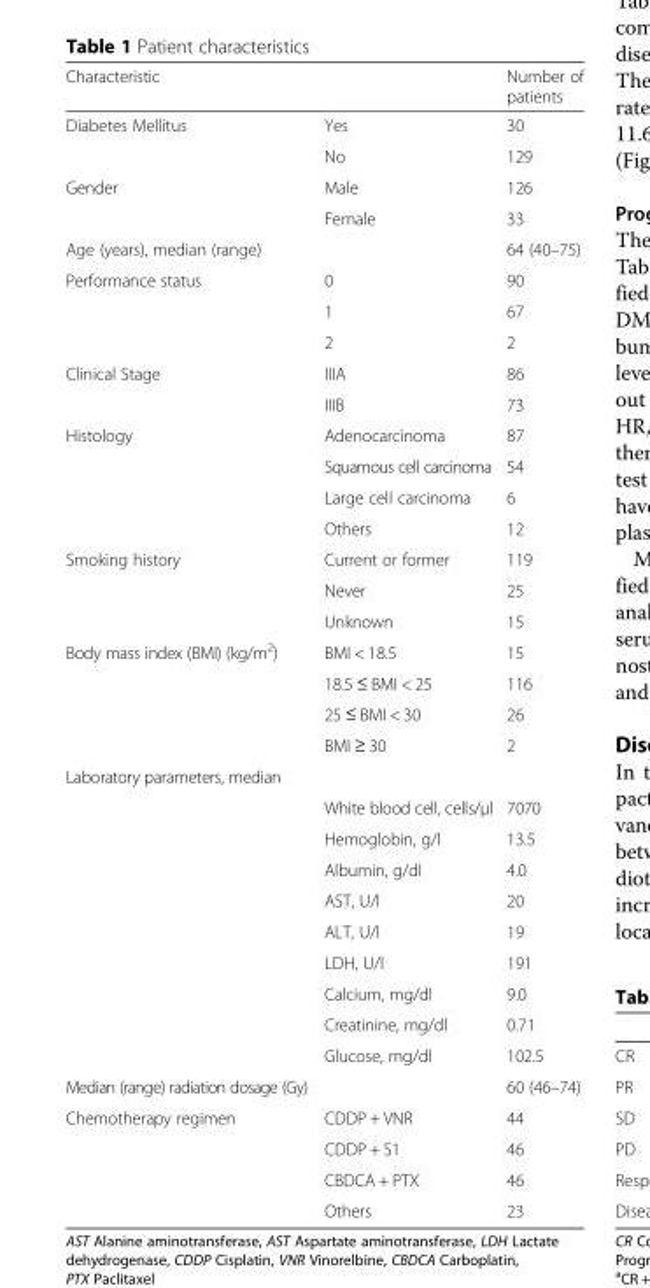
<table><thead><tr><td>Characteristic</td><td></td><td>Number of patients</td></tr></thead><tbody><tr><td rowspan="2">Diabetes Mellitus</td><td>Yes</td><td>30</td></tr><tr><td>No</td><td>129</td></tr><tr><td rowspan="2">Gender</td><td>Male</td><td>126</td></tr><tr><td>Female</td><td>33</td></tr><tr><td>Age (years), median (range)</td><td></td><td>64 (40–75)</td></tr><tr><td rowspan="3">Performance status</td><td>0</td><td>90</td></tr><tr><td>1</td><td>67</td></tr><tr><td>2</td><td>2</td></tr><tr><td rowspan="2">Clinical Stage</td><td>IIIA</td><td>86</td></tr><tr><td>IIIB</td><td>73</td></tr><tr><td rowspan="4">Histology</td><td>Adenocarcinoma</td><td>87</td></tr><tr><td>Squamous cell carcinoma</td><td>54</td></tr><tr><td>Large cell carcinoma</td><td>6</td></tr><tr><td>Others</td><td>12</td></tr><tr><td rowspan="3">Smoking history</td><td>Current or former</td><td>119</td></tr><tr><td>Never</td><td>25</td></tr><tr><td>Unknown</td><td>15</td></tr><tr><td rowspan="4">Body mass index (BMI) (kg/m<sup>2</sup>)</td><td>BMI &lt; 18.5</td><td>15</td></tr><tr><td>18.5 ≤ BMI &lt; 25</td><td>116</td></tr><tr><td>25 ≤ BMI &lt; 30</td><td>26</td></tr><tr><td>BMI ≥ 30</td><td>2</td></tr><tr><td colspan="3">Laboratory parameters, median</td></tr><tr><td></td><td>White blood cell, cells/μl</td><td>7070</td></tr><tr><td></td><td>Hemoglobin, g/l</td><td>13.5</td></tr><tr><td></td><td>Albumin, g/dl</td><td>4.0</td></tr><tr><td></td><td>AST, U/l</td><td>20</td></tr><tr><td></td><td>ALT, U/l</td><td>19</td></tr><tr><td></td><td>LDH, U/l</td><td>191</td></tr><tr><td></td><td>Calcium, mg/dl</td><td>9.0</td></tr><tr><td></td><td>Creatinine, mg/dl</td><td>0.71</td></tr><tr><td></td><td>Glucose, mg/dl</td><td>102.5</td></tr><tr><td>Median (range) radiation dosage (Gy)</td><td></td><td>60 (46–74)</td></tr><tr><td rowspan="4">Chemotherapy regimen</td><td>CDDP + VNR</td><td>44</td></tr><tr><td>CDDP + S1</td><td>46</td></tr><tr><td>CBDCA + PTX</td><td>46</td></tr><tr><td>Others</td><td>23</td></tr></tbody></table>